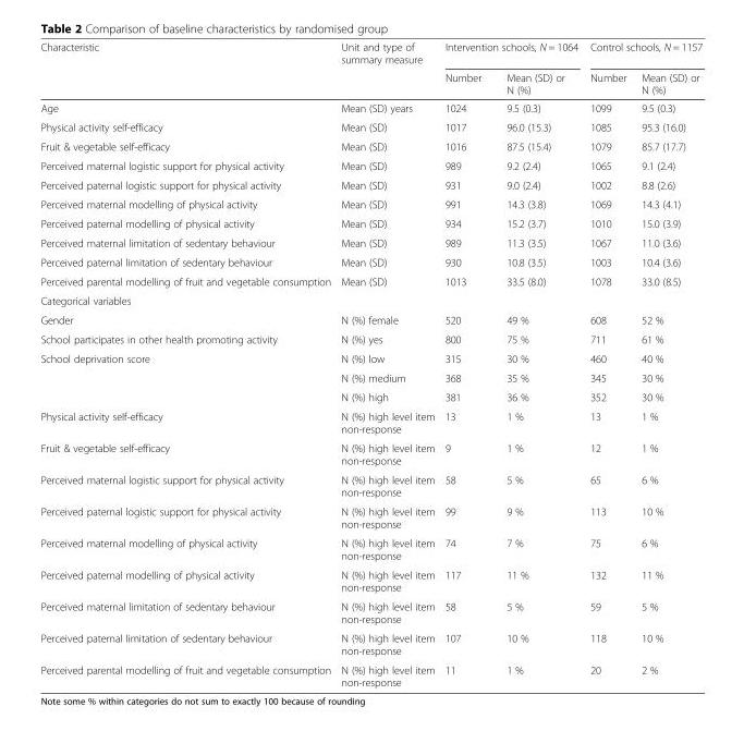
<table><thead><tr><td rowspan="2">Characteristic</td><td rowspan="2">Unit and type of summary measure</td><td colspan="2">Intervention schools, N = 1064</td><td colspan="2">Control schools, N = 1157</td></tr><tr><td>Number</td><td>Mean (SD) or N (%)</td><td>Number</td><td>Mean (SD) or N (%)</td></tr></thead><tbody><tr><td>Age</td><td>Mean (SD) years</td><td>1024</td><td>9.5 (0.3)</td><td>1099</td><td>9.5 (0.3)</td></tr><tr><td>Physical activity self-efficacy</td><td>Mean (SD)</td><td>1017</td><td>96.0 (15.3)</td><td>1085</td><td>95.3 (16.0)</td></tr><tr><td>Fruit &amp; vegetable self-efficacy</td><td>Mean (SD)</td><td>1016</td><td>87.5 (15.4)</td><td>1079</td><td>85.7 (17.7)</td></tr><tr><td>Perceived maternal logistic support for physical activity</td><td>Mean (SD)</td><td>989</td><td>9.2 (2.4)</td><td>1065</td><td>9.1 (2.4)</td></tr><tr><td>Perceived paternal logistic support for physical activity</td><td>Mean (SD)</td><td>931</td><td>9.0 (2.4)</td><td>1002</td><td>8.8 (2.6)</td></tr><tr><td>Perceived maternal modelling of physical activity</td><td>Mean (SD)</td><td>991</td><td>14.3 (3.8)</td><td>1069</td><td>14.3 (4.1)</td></tr><tr><td>Perceived paternal modelling of physical activity</td><td>Mean (SD)</td><td>934</td><td>15.2 (3.7)</td><td>1010</td><td>15.0 (3.9)</td></tr><tr><td>Perceived maternal limitation of sedentary behaviour</td><td>Mean (SD)</td><td>989</td><td>11.3 (3.5)</td><td>1067</td><td>11.0 (3.6)</td></tr><tr><td>Perceived paternal limitation of sedentary behaviour</td><td>Mean (SD)</td><td>930</td><td>10.8 (3.5)</td><td>1003</td><td>10.4 (3.6)</td></tr><tr><td>Perceived parental modelling of fruit and vegetable consumption</td><td>Mean (SD)</td><td>1013</td><td>33.5 (8.0)</td><td>1078</td><td>33.0 (8.5)</td></tr><tr><td colspan="6">Categorical variables</td></tr><tr><td>Gender</td><td>N (%) female</td><td>520</td><td>49 %</td><td>608</td><td>52 %</td></tr><tr><td>School participates in other health promoting activity</td><td>N (%) yes</td><td>800</td><td>75 %</td><td>711</td><td>61 %</td></tr><tr><td rowspan="3">School deprivation score</td><td>N (%) low</td><td>315</td><td>30 %</td><td>460</td><td>40 %</td></tr><tr><td>N (%) medium</td><td>368</td><td>35 %</td><td>345</td><td>30 %</td></tr><tr><td>N (%) high</td><td>381</td><td>36 %</td><td>352</td><td>30 %</td></tr><tr><td>Physical activity self-efficacy</td><td>N (%) high level item non-response</td><td>13</td><td>1 %</td><td>13</td><td>1 %</td></tr><tr><td>Fruit &amp; vegetable self-efficacy</td><td>N (%) high level item non-response</td><td>9</td><td>1 %</td><td>12</td><td>1 %</td></tr><tr><td>Perceived maternal logistic support for physical activity</td><td>N (%) high level item non-response</td><td>58</td><td>5 %</td><td>65</td><td>6 %</td></tr><tr><td>Perceived paternal logistic support for physical activity</td><td>N (%) high level item non-response</td><td>99</td><td>9 %</td><td>113</td><td>10 %</td></tr><tr><td>Perceived maternal modelling of physical activity</td><td>N (%) high level item non-response</td><td>74</td><td>7 %</td><td>75</td><td>6 %</td></tr><tr><td>Perceived paternal modelling of physical activity</td><td>N (%) high level item non-response</td><td>117</td><td>11 %</td><td>132</td><td>11 %</td></tr><tr><td>Perceived maternal limitation of sedentary behaviour</td><td>N (%) high level item non-response</td><td>58</td><td>5 %</td><td>59</td><td>5 %</td></tr><tr><td>Perceived paternal limitation of sedentary behaviour</td><td>N (%) high level item non-response</td><td>107</td><td>10 %</td><td>118</td><td>10 %</td></tr><tr><td>Perceived parental modelling of fruit and vegetable consumption</td><td>N (%) high level item non-response</td><td>11</td><td>1 %</td><td>20</td><td>2 %</td></tr></tbody></table>